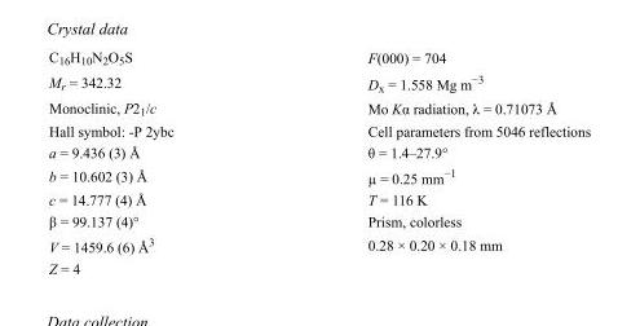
<table><tbody><tr><td>C<sub>16</sub>H<sub>10</sub>N<sub>2</sub>O<sub>5</sub>S</td><td>F(000) = 704</td></tr><tr><td>M<sub>r</sub> = 342.32</td><td>D<sub>x</sub> = 1.558 Mg m<sup>−3</sup></td></tr><tr><td>Monoclinic, P2<sub>1</sub>/c</td><td>Mo Kα radiation, λ = 0.71073 Å</td></tr><tr><td>Hall symbol: -P 2ybc</td><td>Cell parameters from 5046 reflections</td></tr><tr><td>a = 9.436 (3) Å</td><td>θ = 1.4–27.9°</td></tr><tr><td>b = 10.602 (3) Å</td><td>µ = 0.25 mm<sup>−1</sup></td></tr><tr><td>c = 14.777 (4) Å</td><td>T = 116 K</td></tr><tr><td>β = 99.137 (4)°</td><td>Prism, colorless</td></tr><tr><td>V = 1459.6 (6) Å<sup>3</sup></td><td>0.28 × 0.20 × 0.18 mm</td></tr><tr><td>Z = 4</td><td></td></tr></tbody></table>